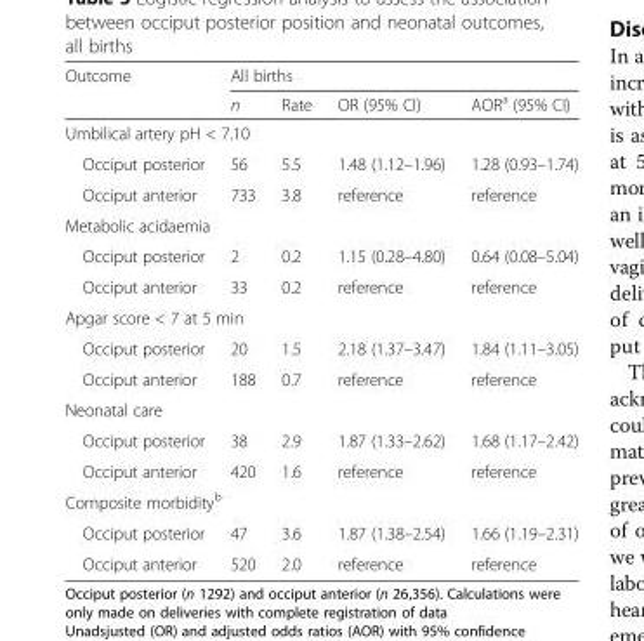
<table><thead><tr><td rowspan="2">Outcome</td><td colspan="4">All births</td></tr><tr><td>n</td><td>Rate</td><td>OR (95% CI)</td><td>AOR<sup>a</sup> (95% CI)</td></tr></thead><tbody><tr><td colspan="5">Umbilical artery pH &lt; 7.10</td></tr><tr><td>Occiput posterior</td><td>56</td><td>5.5</td><td>1.48 (1.12–1.96)</td><td>1.28 (0.93–1.74)</td></tr><tr><td>Occiput anterior</td><td>733</td><td>3.8</td><td>reference</td><td>reference</td></tr><tr><td colspan="5">Metabolic acidaemia</td></tr><tr><td>Occiput posterior</td><td>2</td><td>0.2</td><td>1.15 (0.28–4.80)</td><td>0.64 (0.08–5.04)</td></tr><tr><td>Occiput anterior</td><td>33</td><td>0.2</td><td>reference</td><td>reference</td></tr><tr><td colspan="5">Apgar score &lt; 7 at 5 min</td></tr><tr><td>Occiput posterior</td><td>20</td><td>1.5</td><td>2.18 (1.37–3.47)</td><td>1.84 (1.11–3.05)</td></tr><tr><td>Occiput anterior</td><td>188</td><td>0.7</td><td>reference</td><td>reference</td></tr><tr><td colspan="5">Neonatal care</td></tr><tr><td>Occiput posterior</td><td>38</td><td>2.9</td><td>1.87 (1.33–2.62)</td><td>1.68 (1.17–2.42)</td></tr><tr><td>Occiput anterior</td><td>420</td><td>1.6</td><td>reference</td><td>reference</td></tr><tr><td colspan="5">Composite morbidity<sup>b</sup></td></tr><tr><td>Occiput posterior</td><td>47</td><td>3.6</td><td>1.87 (1.38–2.54)</td><td>1.66 (1.19–2.31)</td></tr><tr><td>Occiput anterior</td><td>520</td><td>2.0</td><td>reference</td><td>reference</td></tr></tbody></table>